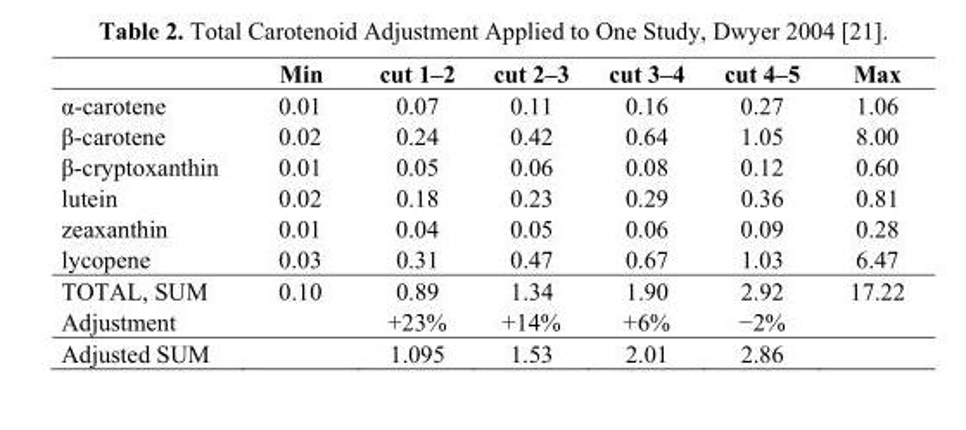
<table><thead><tr><td></td><td>Min</td><td>cut 1–2</td><td>cut 2–3</td><td>cut 3–4</td><td>cut 4–5</td><td>Max</td></tr></thead><tbody><tr><td>α-carotene</td><td>0.01</td><td>0.07</td><td>0.11</td><td>0.16</td><td>0.27</td><td>1.06</td></tr><tr><td>β-carotene</td><td>0.02</td><td>0.24</td><td>0.42</td><td>0.64</td><td>1.05</td><td>8.00</td></tr><tr><td>β-cryptoxanthin</td><td>0.01</td><td>0.05</td><td>0.06</td><td>0.08</td><td>0.12</td><td>0.60</td></tr><tr><td>lutein</td><td>0.02</td><td>0.18</td><td>0.23</td><td>0.29</td><td>0.36</td><td>0.81</td></tr><tr><td>zeaxanthin</td><td>0.01</td><td>0.04</td><td>0.05</td><td>0.06</td><td>0.09</td><td>0.28</td></tr><tr><td>lycopene</td><td>0.03</td><td>0.31</td><td>0.47</td><td>0.67</td><td>1.03</td><td>6.47</td></tr><tr><td>TOTAL, SUM</td><td>0.10</td><td>0.89</td><td>1.34</td><td>1.90</td><td>2.92</td><td>17.22</td></tr><tr><td>Adjustment</td><td></td><td>+23%</td><td>+14%</td><td>+6%</td><td>−2%</td><td></td></tr><tr><td>Adjusted SUM</td><td></td><td>1.095</td><td>1.53</td><td>2.01</td><td>2.86</td><td></td></tr></tbody></table>